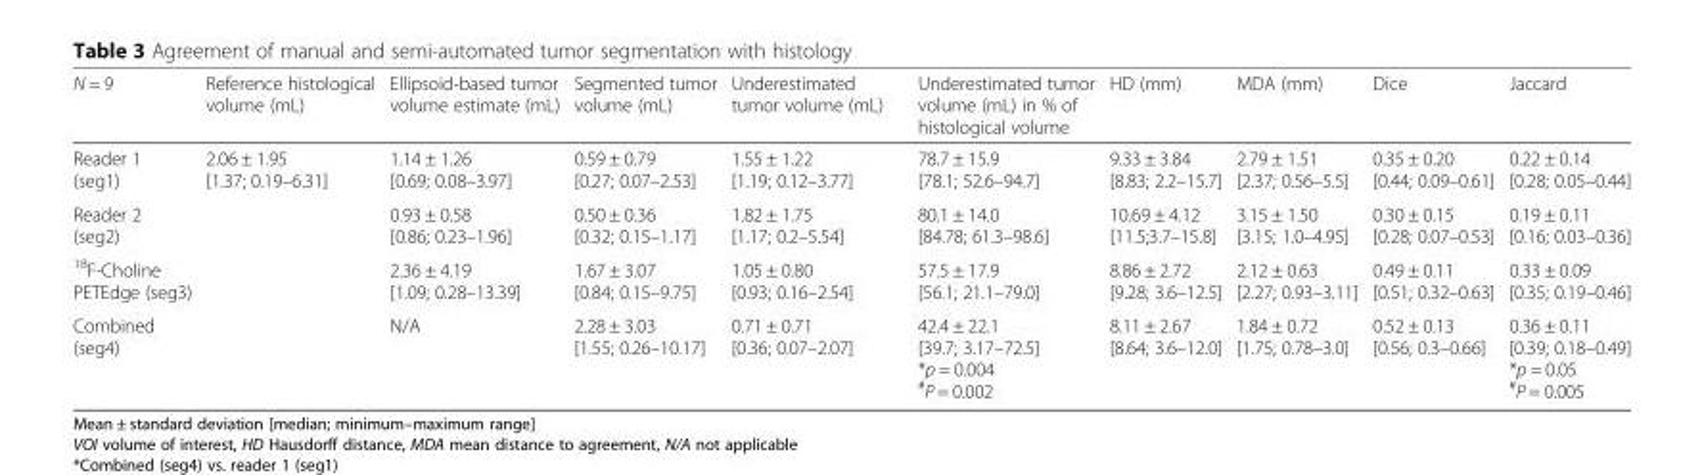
<table><thead><tr><td>N = 9</td><td>Reference histological volume (mL)</td><td>Ellipsoid-based tumor volume estimate (mL)</td><td>Segmented tumor volume (mL)</td><td>Underestimated tumor volume (mL)</td><td>Underestimated tumor volume (mL) in % of histological volume</td><td>HD (mm)</td><td>MDA (mm)</td><td>Dice</td><td>Jaccard</td></tr></thead><tbody><tr><td>Reader 1 (seg1)</td><td rowspan="4">2.06 ± 1.95 [1.37; 0.19–6.31]</td><td>1.14 ± 1.26 [0.69; 0.08–3.97]</td><td>0.59 ± 0.79 [0.27; 0.07–2.53]</td><td>1.55 ± 1.22 [1.19; 0.12–3.77]</td><td>78.7 ± 15.9 [78.1; 52.6–94.7]</td><td>9.33 ± 3.84 [8.83; 2.2–15.7]</td><td>2.79 ± 1.51 [2.37; 0.56–5.5]</td><td>0.35 ± 0.20 [0.44; 0.09–0.61]</td><td>0.22 ± 0.14 [0.28; 0.05–0.44]</td></tr><tr><td>Reader 2 (seg2)</td><td>0.93 ± 0.58 [0.86; 0.23–1.96]</td><td>0.50 ± 0.36 [0.32; 0.15–1.17]</td><td>1.82 ± 1.75 [1.17; 0.2–5.54]</td><td>80.1 ± 14.0 [84.78; 61.3–98.6]</td><td>10.69 ± 4.12 [11.5;3.7–15.8]</td><td>3.15 ± 1.50 [3.15; 1.0–4.95]</td><td>0.30 ± 0.15 [0.28; 0.07–0.53]</td><td>0.19 ± 0.11 [0.16; 0.03–0.36]</td></tr><tr><td><sup>18</sup>F-Choline PETEdge (seg3)</td><td>2.36 ± 4.19 [1.09; 0.28–13.39]</td><td>1.67 ± 3.07 [0.84; 0.15–9.75]</td><td>1.05 ± 0.80 [0.93; 0.16–2.54]</td><td>57.5 ± 17.9 [56.1; 21.1–79.0]</td><td>8.86 ± 2.72 [9.28; 3.6–12.5]</td><td>2.12 ± 0.63 [2.27; 0.93–3.11]</td><td>0.49 ± 0.11 [0.51; 0.32–0.63]</td><td>0.33 ± 0.09 [0.35; 0.19–0.46]</td></tr><tr><td>Combined (seg4)</td><td>N/A</td><td>2.28 ± 3.03 [1.55; 0.26–10.17]</td><td>0.71 ± 0.71 [0.36; 0.07–2.07]</td><td>42.4 ± 22.1 [39.7; 3.17–72.5] *p = 0.004 <sup>#</sup>P = 0.002</td><td>8.11 ± 2.67 [8.64; 3.6–12.0]</td><td>1.84 ± 0.72 [1.75; 0.78–3.0]</td><td>0.52 ± 0.13 [0.56; 0.3–0.66]</td><td>0.36 ± 0.11 [0.39; 0.18–0.49] *p = 0.05 <sup>#</sup>P = 0.005</td></tr></tbody></table>